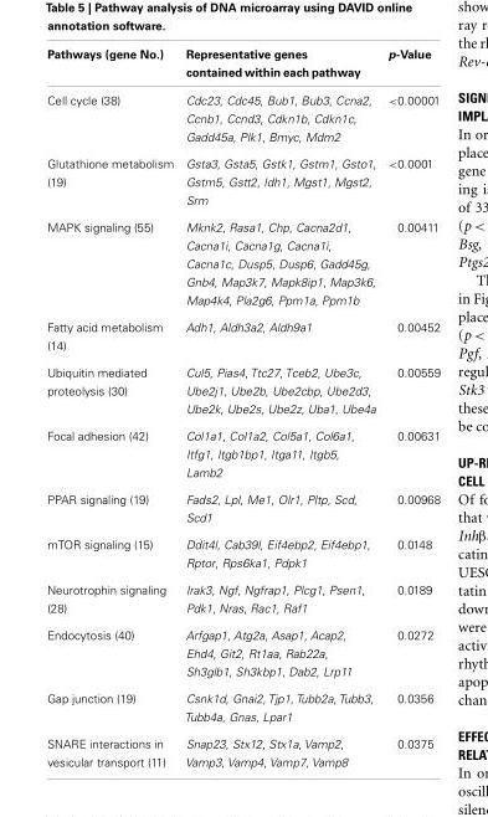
<table><thead><tr><td>Pathways (gene No.)</td><td>Representative genes contained within each pathway</td><td>p-Value</td></tr></thead><tbody><tr><td>Cell cycle (38)</td><td>Cdc23, Cdc45, Bub1, Bub3, Ccna2, Ccnb1, Ccnd3, Cdkn1b, Cdkn1c, Gadd45a, Plk1, Bmyc, Mdm2</td><td>&lt;0.00001</td></tr><tr><td>Glutathione metabolism (19)</td><td>Gsta3, Gsta5, Gstk1, Gstm1, Gsto1, Gstm5, Gstt2, Idh1, Mgst1, Mgst2, Srm</td><td>&lt;0.0001</td></tr><tr><td>MAPK signaling (55)</td><td>Mknk2, Rasa1, Chp, Cacna2d1, Cacna1i, Cacna1g, Cacna1i, Cacna1c, Dusp5, Dusp6, Gadd45g, Gnb4, Map3k7, Mapk8ip1, Map3k6, Map4k4, Pla2g6, Ppm1a, Ppm1b</td><td>0.00411</td></tr><tr><td>Fatty acid metabolism (14)</td><td>Adh1, Aldh3a2, Aldh9a1</td><td>0.00452</td></tr><tr><td>Ubiquitin mediated proteolysis (30)</td><td>Cul5, Pias4, Ttc27, Tceb2, Ube3c, Ube2j1, Ube2b, Ube2cbp, Ube2d3, Ube2k, Ube2s, Ube2z, Uba1, Ube4a</td><td>0.00559</td></tr><tr><td>Focal adhesion (42)</td><td>Col1a1, Col1a2, Col5a1, Col6a1, Itfg1, Itgb1bp1, Itga11, Itgb5, Lamb2</td><td>0.00631</td></tr><tr><td>PPAR signaling (19)</td><td>Fads2, Lpl, Me1, Olr1, Pltp, Scd, Scd1</td><td>0.00968</td></tr><tr><td>mTOR signaling (15)</td><td>Ddit4l, Cab39l, Eif4ebp2, Eif4ebp1, Rptor, Rps6ka1, Pdpk1</td><td>0.0148</td></tr><tr><td>Neurotrophin signaling (28)</td><td>Irak3, Ngf, Ngfrap1, Plcg1, Psen1, Pdk1, Nras, Rac1, Raf1</td><td>0.0189</td></tr><tr><td>Endocytosis (40)</td><td>Arfgap1, Atg2a, Asap1, Acap2, Ehd4, Git2, Rt1aa, Rab22a, Sh3glb1, Sh3kbp1, Dab2, Lrp11</td><td>0.0272</td></tr><tr><td>Gap junction (19)</td><td>Csnk1d, Gnai2, Tjp1, Tubb2a, Tubb3, Tubb4a, Gnas, Lpar1</td><td>0.0356</td></tr><tr><td>SNARE interactions in vesicular transport (11)</td><td>Snap23, Stx12, Stx1a, Vamp2, Vamp3, Vamp4, Vamp7, Vamp8</td><td>0.0375</td></tr></tbody></table>